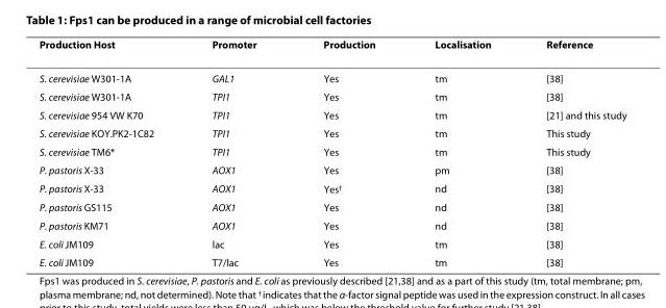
<table><thead><tr><td>Production Host</td><td>Promoter</td><td>Production</td><td>Localisation</td><td>Reference</td></tr></thead><tbody><tr><td>S. cerevisiae W301-1A</td><td>GAL1</td><td>Yes</td><td>tm</td><td>[38]</td></tr><tr><td>S. cerevisiae W301-1A</td><td>TPI1</td><td>Yes</td><td>tm</td><td>[38]</td></tr><tr><td>S. cerevisiae 954 VW K70</td><td>TPI1</td><td>Yes</td><td>tm</td><td>[21] and this study</td></tr><tr><td>S. cerevisiae KOY.PK2-1C82</td><td>TPI1</td><td>Yes</td><td>tm</td><td>This study</td></tr><tr><td>S. cerevisiae TM6*</td><td>TPI1</td><td>Yes</td><td>tm</td><td>This study</td></tr><tr><td>P. pastoris X-33</td><td>AOX1</td><td>Yes</td><td>pm</td><td>[38]</td></tr><tr><td>P. pastoris X-33</td><td>AOX1</td><td>Yes<sup>†</sup></td><td>nd</td><td>[38]</td></tr><tr><td>P. pastoris GS115</td><td>AOX1</td><td>Yes</td><td>nd</td><td>[38]</td></tr><tr><td>P. pastoris KM71</td><td>AOX1</td><td>Yes</td><td>nd</td><td>[38]</td></tr><tr><td>E. coli JM109</td><td>lac</td><td>Yes</td><td>tm</td><td>[38]</td></tr><tr><td>E. coli JM109</td><td>T7/lac</td><td>Yes</td><td>tm</td><td>[38]</td></tr></tbody></table>